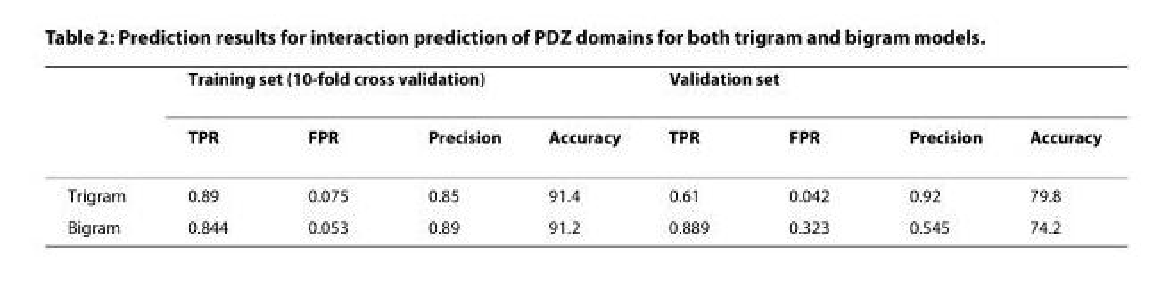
<table><thead><tr><td rowspan="2"></td><td colspan="4">Training set (10-fold cross validation)</td><td colspan="4">Validation set</td></tr><tr><td>TPR</td><td>FPR</td><td>Precision</td><td>Accuracy</td><td>TPR</td><td>FPR</td><td>Precision</td><td>Accuracy</td></tr></thead><tbody><tr><td>Trigram</td><td>0.89</td><td>0.075</td><td>0.85</td><td>91.4</td><td>0.61</td><td>0.042</td><td>0.92</td><td>79.8</td></tr><tr><td>Bigram</td><td>0.844</td><td>0.053</td><td>0.89</td><td>91.2</td><td>0.889</td><td>0.323</td><td>0.545</td><td>74.2</td></tr></tbody></table>